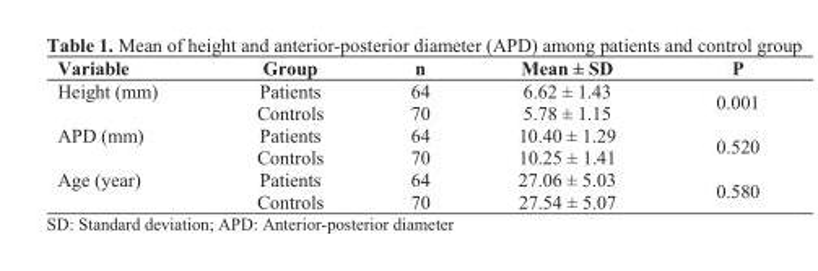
<table><thead><tr><td>Variable</td><td>Group</td><td>n</td><td>Mean ± SD</td><td>P</td></tr></thead><tbody><tr><td rowspan="2">Height (mm)</td><td>Patients</td><td>64</td><td>6.62 ± 1.43</td><td rowspan="2">0.001</td></tr><tr><td>Controls</td><td>70</td><td>5.78 ± 1.15</td></tr><tr><td rowspan="2">APD (mm)</td><td>Patients</td><td>64</td><td>10.40 ± 1.29</td><td rowspan="2">0.520</td></tr><tr><td>Controls</td><td>70</td><td>10.25 ± 1.41</td></tr><tr><td rowspan="2">Age (year)</td><td>Patients</td><td>64</td><td>27.06 ± 5.03</td><td rowspan="2">0.580</td></tr><tr><td>Controls</td><td>70</td><td>27.54 ± 5.07</td></tr></tbody></table>